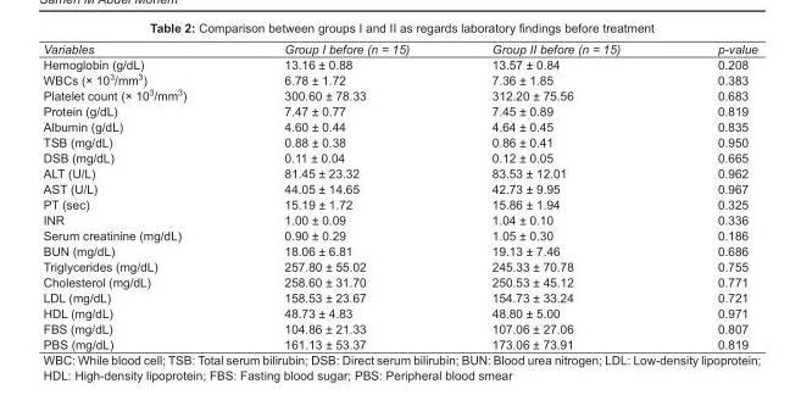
<table><tbody><tr><td>Variables</td><td>Group I before (n = 15)</td><td>Group II before (n = 15)</td><td>p-value</td></tr><tr><td>Hemoglobin (g/dL)</td><td>13.16 ± 0.88</td><td>13.57 ± 0.84</td><td>0.208</td></tr><tr><td>WBCs (× 10<sup>3</sup>/mm<sup>3</sup>)</td><td>6.78 ± 1.72</td><td>7.36 ± 1.85</td><td>0.383</td></tr><tr><td>Platelet count (× 10<sup>3</sup>/mm<sup>3</sup>)</td><td>300.60 ± 78.33</td><td>312.20 ± 75.56</td><td>0.683</td></tr><tr><td>Protein (g/dL)</td><td>7.47 ± 0.77</td><td>7.45 ± 0.89</td><td>0.819</td></tr><tr><td>Albumin (g/dL)</td><td>4.60 ± 0.44</td><td>4.64 ± 0.45</td><td>0.835</td></tr><tr><td>TSB (mg/dL)</td><td>0.88 ± 0.38</td><td>0.86 ± 0.41</td><td>0.950</td></tr><tr><td>DSB (mg/dL)</td><td>0.11 ± 0.04</td><td>0.12 ± 0.05</td><td>0.665</td></tr><tr><td>ALT (U/L)</td><td>81.45 ± 23.32</td><td>83.53 ± 12.01</td><td>0.962</td></tr><tr><td>AST (U/L)</td><td>44.05 ± 14.65</td><td>42.73 ± 9.95</td><td>0.967</td></tr><tr><td>PT (sec)</td><td>15.19 ± 1.72</td><td>15.86 ± 1.94</td><td>0.325</td></tr><tr><td>INR</td><td>1.00 ± 0.09</td><td>1.04 ± 0.10</td><td>0.336</td></tr><tr><td>Serum creatinine (mg/dL)</td><td>0.90 ± 0.29</td><td>1.05 ± 0.30</td><td>0.186</td></tr><tr><td>BUN (mg/dL)</td><td>18.06 ± 6.81</td><td>19.13 ± 7.46</td><td>0.686</td></tr><tr><td>Triglycerides (mg/dL)</td><td>257.80 ± 55.02</td><td>245.33 ± 70.78</td><td>0.755</td></tr><tr><td>Cholesterol (mg/dL)</td><td>258.60 ± 31.70</td><td>250.53 ± 45.12</td><td>0.771</td></tr><tr><td>LDL (mg/dL)</td><td>158.53 ± 23.67</td><td>154.73 ± 33.24</td><td>0.721</td></tr><tr><td>HDL (mg/dL)</td><td>48.73 ± 4.83</td><td>48.80 ± 5.00</td><td>0.971</td></tr><tr><td>FBS (mg/dL)</td><td>104.86 ± 21.33</td><td>107.06 ± 27.06</td><td>0.807</td></tr><tr><td>PBS (mg/dL)</td><td>161.13 ± 53.37</td><td>173.06 ± 73.91</td><td>0.819</td></tr></tbody></table>